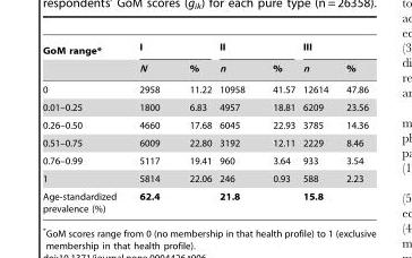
<table><thead><tr><td rowspan="2">GoM range*</td><td colspan="2">I</td><td colspan="2">II</td><td colspan="2">III</td></tr><tr><td>N</td><td>%</td><td>n</td><td>%</td><td>n</td><td>%</td></tr></thead><tbody><tr><td>0</td><td>2958</td><td>11.22</td><td>10958</td><td>41.57</td><td>12614</td><td>47.86</td></tr><tr><td>0.01–0.25</td><td>1800</td><td>6.83</td><td>4957</td><td>18.81</td><td>6209</td><td>23.56</td></tr><tr><td>0.26–0.50</td><td>4660</td><td>17.68</td><td>6045</td><td>22.93</td><td>3785</td><td>14.36</td></tr><tr><td>0.51–0.75</td><td>6009</td><td>22.80</td><td>3192</td><td>12.11</td><td>2229</td><td>8.46</td></tr><tr><td>0.76–0.99</td><td>5117</td><td>19.41</td><td>960</td><td>3.64</td><td>933</td><td>3.54</td></tr><tr><td>1</td><td>5814</td><td>22.06</td><td>246</td><td>0.93</td><td>588</td><td>2.23</td></tr><tr><td>Age-standardized prevalence (%)</td><td colspan="2">62.4</td><td colspan="2">21.8</td><td colspan="2">15.8</td></tr></tbody></table>